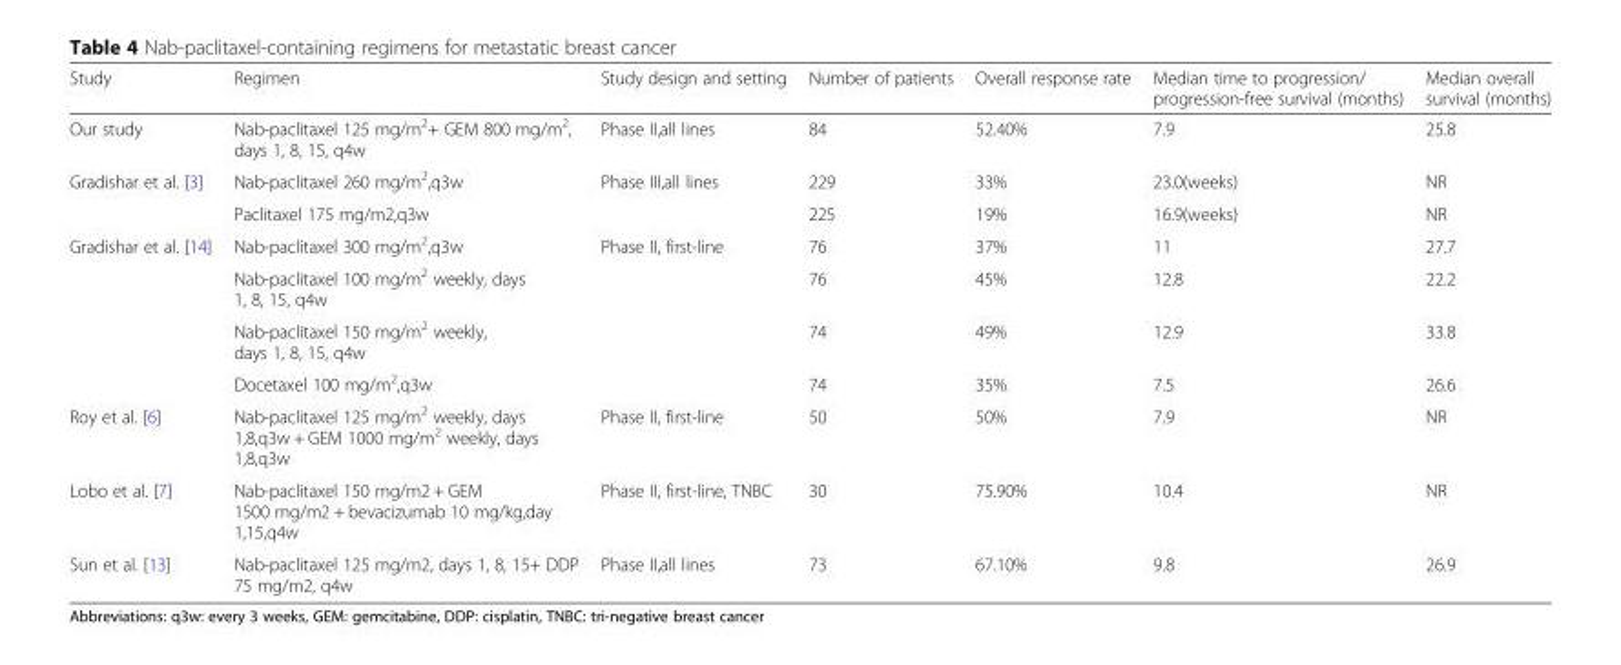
<table><thead><tr><td>Study</td><td>Regimen</td><td>Study design and setting</td><td>Number of patients</td><td>Overall response rate</td><td>Median time to progression/ progression-free survival (months)</td><td>Median overall survival (months)</td></tr></thead><tbody><tr><td>Our study</td><td>Nab-paclitaxel 125 mg/m<sup>2</sup>+ GEM 800 mg/m<sup>2</sup>, days 1, 8, 15, q4w</td><td>Phase II,all lines</td><td>84</td><td>52.40%</td><td>7.9</td><td>25.8</td></tr><tr><td rowspan="2">Gradishar et al. [3]</td><td>Nab-paclitaxel 260 mg/m<sup>2</sup>,q3w</td><td rowspan="2">Phase III,all lines</td><td>229</td><td>33%</td><td>23.0(weeks)</td><td>NR</td></tr><tr><td>Paclitaxel 175 mg/m2,q3w</td><td>225</td><td>19%</td><td>16.9(weeks)</td><td>NR</td></tr><tr><td rowspan="4">Gradishar et al. [14]</td><td>Nab-paclitaxel 300 mg/m<sup>2</sup>,q3w</td><td rowspan="4">Phase II, first-line</td><td>76</td><td>37%</td><td>11</td><td>27.7</td></tr><tr><td>Nab-paclitaxel 100 mg/m<sup>2</sup> weekly, days 1, 8, 15, q4w</td><td>76</td><td>45%</td><td>12.8</td><td>22.2</td></tr><tr><td>Nab-paclitaxel 150 mg/m<sup>2</sup> weekly, days 1, 8, 15, q4w</td><td>74</td><td>49%</td><td>12.9</td><td>33.8</td></tr><tr><td>Docetaxel 100 mg/m<sup>2</sup>,q3w</td><td>74</td><td>35%</td><td>7.5</td><td>26.6</td></tr><tr><td>Roy et al. [6]</td><td>Nab-paclitaxel 125 mg/m<sup>2</sup> weekly, days 1,8,q3w + GEM 1000 mg/m<sup>2</sup> weekly, days 1,8,q3w</td><td>Phase II, first-line</td><td>50</td><td>50%</td><td>7.9</td><td>NR</td></tr><tr><td>Lobo et al. [7]</td><td>Nab-paclitaxel 150 mg/m2 + GEM 1500 mg/m2 + bevacizumab 10 mg/kg,day 1,15,q4w</td><td>Phase II, first-line, TNBC</td><td>30</td><td>75.90%</td><td>10.4</td><td>NR</td></tr><tr><td>Sun et al. [13]</td><td>Nab-paclitaxel 125 mg/m2, days 1, 8, 15+ DDP 75 mg/m2, q4w</td><td>Phase II,all lines</td><td>73</td><td>67.10%</td><td>9.8</td><td>26.9</td></tr></tbody></table>